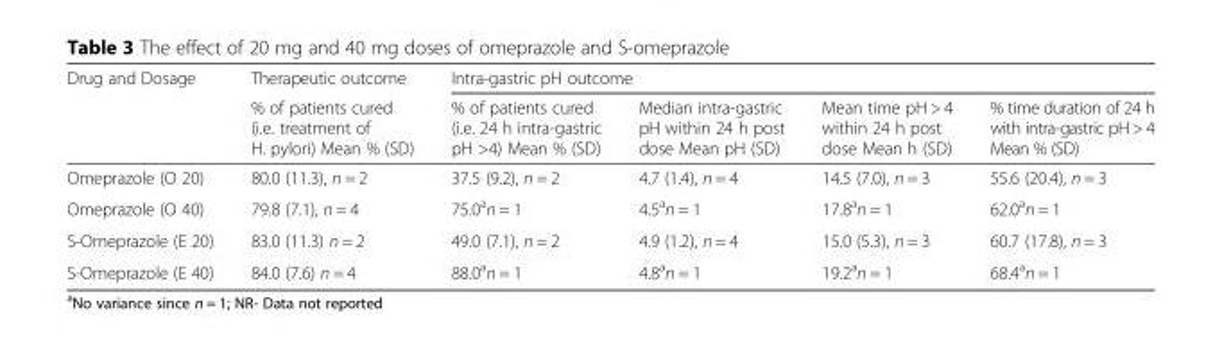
<table><thead><tr><td rowspan="2">Drug and Dosage</td><td rowspan="2">Therapeutic outcome % of patients cured (i.e. treatment of H. pylori) Mean % (SD)</td><td colspan="4">Intra-gastric pH outcome</td></tr><tr><td>% of patients cured (i.e. 24 h intra-gastric pH &gt;4) Mean % (SD)</td><td>Median intra-gastric pH within 24 h post dose Mean pH (SD)</td><td>Mean time pH &gt; 4 within 24 h post dose Mean h (SD)</td><td>% time duration of 24 h with intra-gastric pH &gt; 4 Mean % (SD)</td></tr></thead><tbody><tr><td>Omeprazole (O 20)</td><td>80.0 (11.3), n = 2</td><td>37.5 (9.2), n = 2</td><td>4.7 (1.4), n = 4</td><td>14.5 (7.0), n = 3</td><td>55.6 (20.4), n = 3</td></tr><tr><td>Omeprazole (O 40)</td><td>79.8 (7.1), n = 4</td><td>75.0<sup>a</sup>n = 1</td><td>4.5<sup>a</sup>n = 1</td><td>17.8<sup>a</sup>n = 1</td><td>62.0<sup>a</sup>n = 1</td></tr><tr><td>S-Omeprazole (E 20)</td><td>83.0 (11.3) n = 2</td><td>49.0 (7.1), n = 2</td><td>4.9 (1.2), n = 4</td><td>15.0 (5.3), n = 3</td><td>60.7 (17.8), n = 3</td></tr><tr><td>S-Omeprazole (E 40)</td><td>84.0 (7.6) n = 4</td><td>88.0<sup>a</sup>n = 1</td><td>4.8<sup>a</sup>n = 1</td><td>19.2<sup>a</sup>n = 1</td><td>68.4<sup>a</sup>n = 1</td></tr></tbody></table>